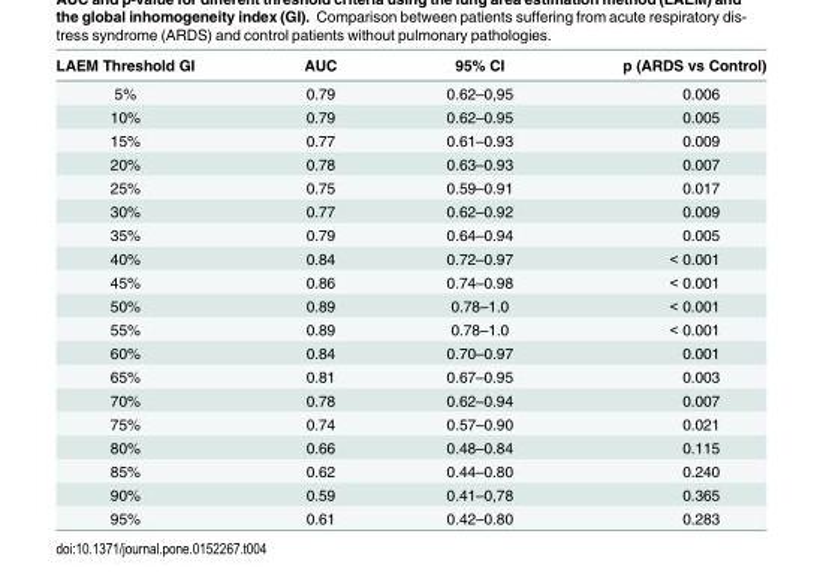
<table><thead><tr><td>LAEM Threshold GI</td><td>AUC</td><td>95% CI</td><td>p (ARDS vs Control)</td></tr></thead><tbody><tr><td>5%</td><td>0.79</td><td>0.62–0,95</td><td>0.006</td></tr><tr><td>10%</td><td>0.79</td><td>0.62–0.95</td><td>0.005</td></tr><tr><td>15%</td><td>0.77</td><td>0.61–0.93</td><td>0.009</td></tr><tr><td>20%</td><td>0.78</td><td>0.63–0.93</td><td>0.007</td></tr><tr><td>25%</td><td>0.75</td><td>0.59–0.91</td><td>0.017</td></tr><tr><td>30%</td><td>0.77</td><td>0.62–0.92</td><td>0.009</td></tr><tr><td>35%</td><td>0.79</td><td>0.64–0.94</td><td>0.005</td></tr><tr><td>40%</td><td>0.84</td><td>0.72–0.97</td><td>&lt; 0.001</td></tr><tr><td>45%</td><td>0.86</td><td>0.74–0.98</td><td>&lt; 0.001</td></tr><tr><td>50%</td><td>0.89</td><td>0.78–1.0</td><td>&lt; 0.001</td></tr><tr><td>55%</td><td>0.89</td><td>0.78–1.0</td><td>&lt; 0.001</td></tr><tr><td>60%</td><td>0.84</td><td>0.70–0.97</td><td>0.001</td></tr><tr><td>65%</td><td>0.81</td><td>0.67–0.95</td><td>0.003</td></tr><tr><td>70%</td><td>0.78</td><td>0.62–0.94</td><td>0.007</td></tr><tr><td>75%</td><td>0.74</td><td>0.57–0.90</td><td>0.021</td></tr><tr><td>80%</td><td>0.66</td><td>0.48–0.84</td><td>0.115</td></tr><tr><td>85%</td><td>0.62</td><td>0.44–0.80</td><td>0.240</td></tr><tr><td>90%</td><td>0.59</td><td>0.41–0,78</td><td>0.365</td></tr><tr><td>95%</td><td>0.61</td><td>0.42–0.80</td><td>0.283</td></tr></tbody></table>